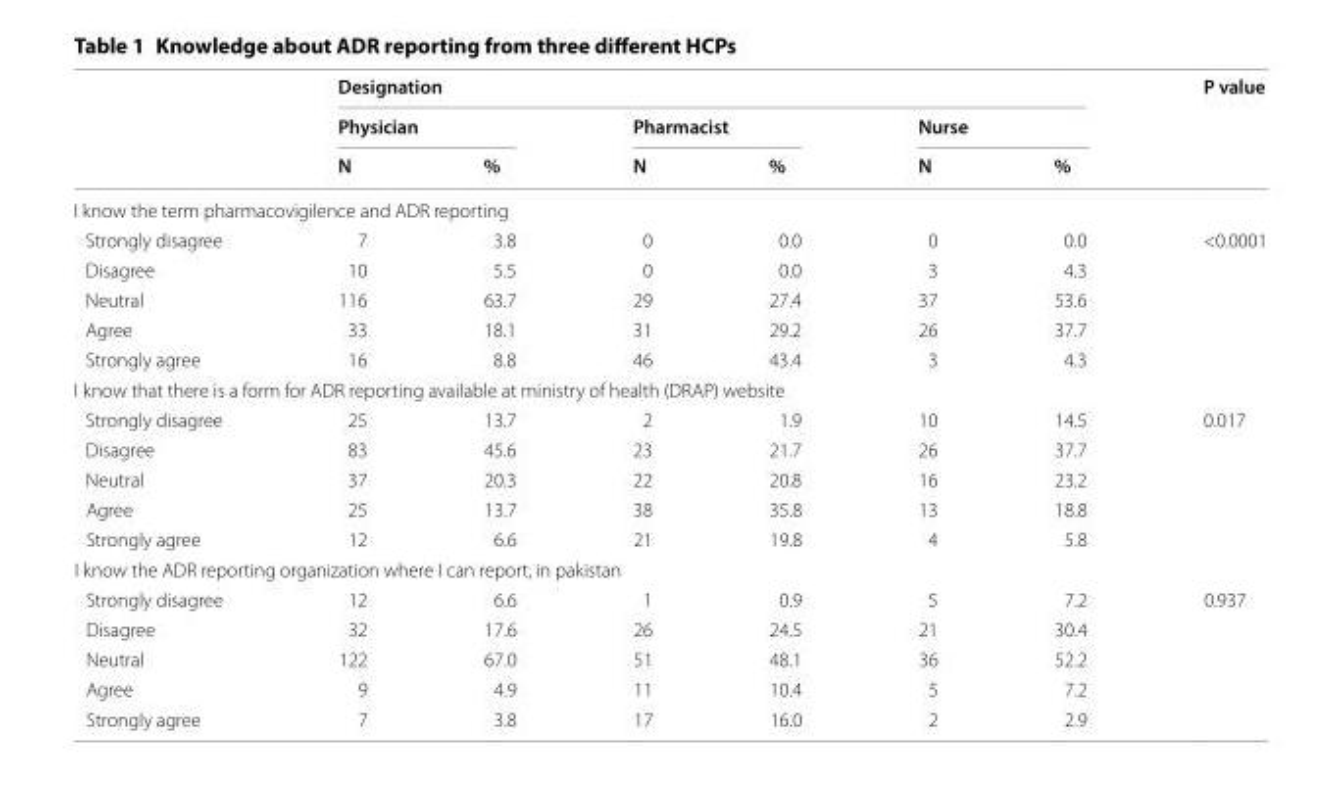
<table><thead><tr><td rowspan="3"></td><td colspan="6">Designation</td><td rowspan="3">P value</td></tr><tr><td colspan="2">Physician</td><td colspan="2">Pharmacist</td><td colspan="2">Nurse</td></tr><tr><td>N</td><td>%</td><td>N</td><td>%</td><td>N</td><td>%</td></tr></thead><tbody><tr><td colspan="8">I know the term pharmacovigilence and ADR reporting</td></tr><tr><td>Strongly disagree</td><td>7</td><td>3.8</td><td>0</td><td>0.0</td><td>0</td><td>0.0</td><td>&lt;0.0001</td></tr><tr><td>Disagree</td><td>10</td><td>5.5</td><td>0</td><td>0.0</td><td>3</td><td>4.3</td><td></td></tr><tr><td>Neutral</td><td>116</td><td>63.7</td><td>29</td><td>27.4</td><td>37</td><td>53.6</td><td></td></tr><tr><td>Agree</td><td>33</td><td>18.1</td><td>31</td><td>29.2</td><td>26</td><td>37.7</td><td></td></tr><tr><td>Strongly agree</td><td>16</td><td>8.8</td><td>46</td><td>43.4</td><td>3</td><td>4.3</td><td></td></tr><tr><td colspan="8">I know that there is a form for ADR reporting available at ministry of health (DRAP) website</td></tr><tr><td>Strongly disagree</td><td>25</td><td>13.7</td><td>2</td><td>1.9</td><td>10</td><td>14.5</td><td>0.017</td></tr><tr><td>Disagree</td><td>83</td><td>45.6</td><td>23</td><td>21.7</td><td>26</td><td>37.7</td><td></td></tr><tr><td>Neutral</td><td>37</td><td>20.3</td><td>22</td><td>20.8</td><td>16</td><td>23.2</td><td></td></tr><tr><td>Agree</td><td>25</td><td>13.7</td><td>38</td><td>35.8</td><td>13</td><td>18.8</td><td></td></tr><tr><td>Strongly agree</td><td>12</td><td>6.6</td><td>21</td><td>19.8</td><td>4</td><td>5.8</td><td></td></tr><tr><td colspan="8">I know the ADR reporting organization where I can report, in pakistan</td></tr><tr><td>Strongly disagree</td><td>12</td><td>6.6</td><td>1</td><td>0.9</td><td>5</td><td>7.2</td><td>0.937</td></tr><tr><td>Disagree</td><td>32</td><td>17.6</td><td>26</td><td>24.5</td><td>21</td><td>30.4</td><td></td></tr><tr><td>Neutral</td><td>122</td><td>67.0</td><td>51</td><td>48.1</td><td>36</td><td>52.2</td><td></td></tr><tr><td>Agree</td><td>9</td><td>4.9</td><td>11</td><td>10.4</td><td>5</td><td>7.2</td><td></td></tr><tr><td>Strongly agree</td><td>7</td><td>3.8</td><td>17</td><td>16.0</td><td>2</td><td>2.9</td><td></td></tr></tbody></table>